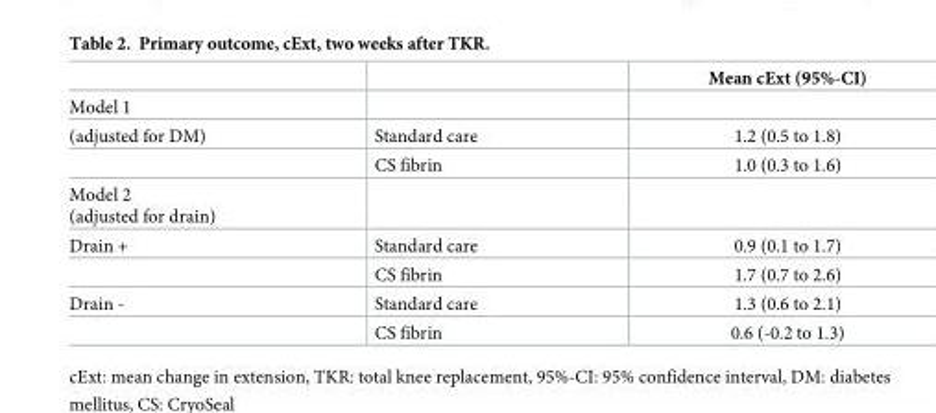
<table><thead><tr><td></td><td></td><td>Mean cExt (95%-CI)</td></tr></thead><tbody><tr><td colspan="3">Model 1</td></tr><tr><td rowspan="2">(adjusted for DM)</td><td>Standard care</td><td>1.2 (0.5 to 1.8)</td></tr><tr><td>CS fibrin</td><td>1.0 (0.3 to 1.6)</td></tr><tr><td colspan="3">Model 2 (adjusted for drain)</td></tr><tr><td rowspan="2">Drain +</td><td>Standard care</td><td>0.9 (0.1 to 1.7)</td></tr><tr><td>CS fibrin</td><td>1.7 (0.7 to 2.6)</td></tr><tr><td rowspan="2">Drain -</td><td>Standard care</td><td>1.3 (0.6 to 2.1)</td></tr><tr><td>CS fibrin</td><td>0.6 (-0.2 to 1.3)</td></tr></tbody></table>